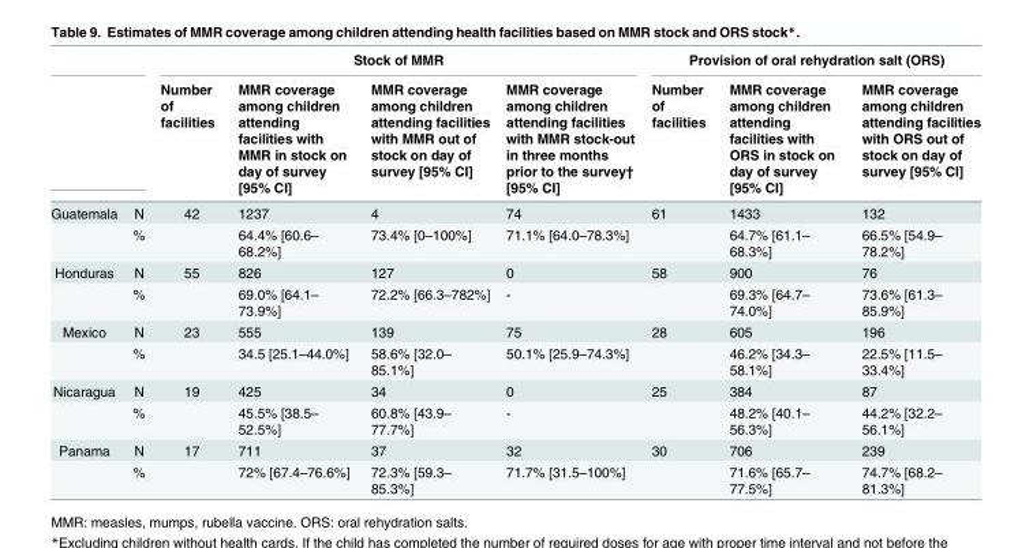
<table><thead><tr><td rowspan="2"></td><td rowspan="2"></td><td colspan="4">Stock of MMR</td><td colspan="3">Provision of oral rehydration salt (ORS)</td></tr><tr><td>Number of facilities</td><td>MMR coverage among children attending facilities with MMR in stock on day of survey [95% CI]</td><td>MMR coverage among children attending facilities with MMR out of stock on day of survey [95% CI]</td><td>MMR coverage among children attending facilities with MMR stock-out in three months prior to the survey† [95% CI]</td><td>Number of facilities</td><td>MMR coverage among children attending facilities with ORS in stock on day of survey [95% CI]</td><td>MMR coverage among children attending facilities with ORS out of stock on day of survey [95% CI]</td></tr></thead><tbody><tr><td rowspan="2">Guatemala</td><td>N</td><td>42</td><td>1237</td><td>4</td><td>74</td><td>61</td><td>1433</td><td>132</td></tr><tr><td>%</td><td></td><td>64.4% [60.6– 68.2%]</td><td>73.4% [0–100%]</td><td>71.1% [64.0–78.3%]</td><td></td><td>64.7% [61.1– 68.3%]</td><td>66.5% [54.9– 78.2%]</td></tr><tr><td rowspan="2">Honduras</td><td>N</td><td>55</td><td>826</td><td>127</td><td>0</td><td>58</td><td>900</td><td>76</td></tr><tr><td>%</td><td></td><td>69.0% [64.1– 73.9%]</td><td>72.2% [66.3–782%]</td><td>-</td><td></td><td>69.3% [64.7– 74.0%]</td><td>73.6% [61.3– 85.9%]</td></tr><tr><td rowspan="2">Mexico</td><td>N</td><td>23</td><td>555</td><td>139</td><td>75</td><td>28</td><td>605</td><td>196</td></tr><tr><td>%</td><td></td><td>34.5 [25.1–44.0%]</td><td>58.6% [32.0– 85.1%]</td><td>50.1% [25.9–74.3%]</td><td></td><td>46.2% [34.3– 58.1%]</td><td>22.5% [11.5– 33.4%]</td></tr><tr><td rowspan="2">Nicaragua</td><td>N</td><td>19</td><td>425</td><td>34</td><td>0</td><td>25</td><td>384</td><td>87</td></tr><tr><td>%</td><td></td><td>45.5% [38.5– 52.5%]</td><td>60.8% [43.9– 77.7%]</td><td>-</td><td></td><td>48.2% [40.1– 56.3%]</td><td>44.2% [32.2– 56.1%]</td></tr><tr><td rowspan="2">Panama</td><td>N</td><td>17</td><td>711</td><td>37</td><td>32</td><td>30</td><td>706</td><td>239</td></tr><tr><td>%</td><td></td><td>72% [67.4–76.6%]</td><td>72.3% [59.3– 85.3%]</td><td>71.7% [31.5–100%]</td><td></td><td>71.6% [65.7– 77.5%]</td><td>74.7% [68.2– 81.3%]</td></tr></tbody></table>